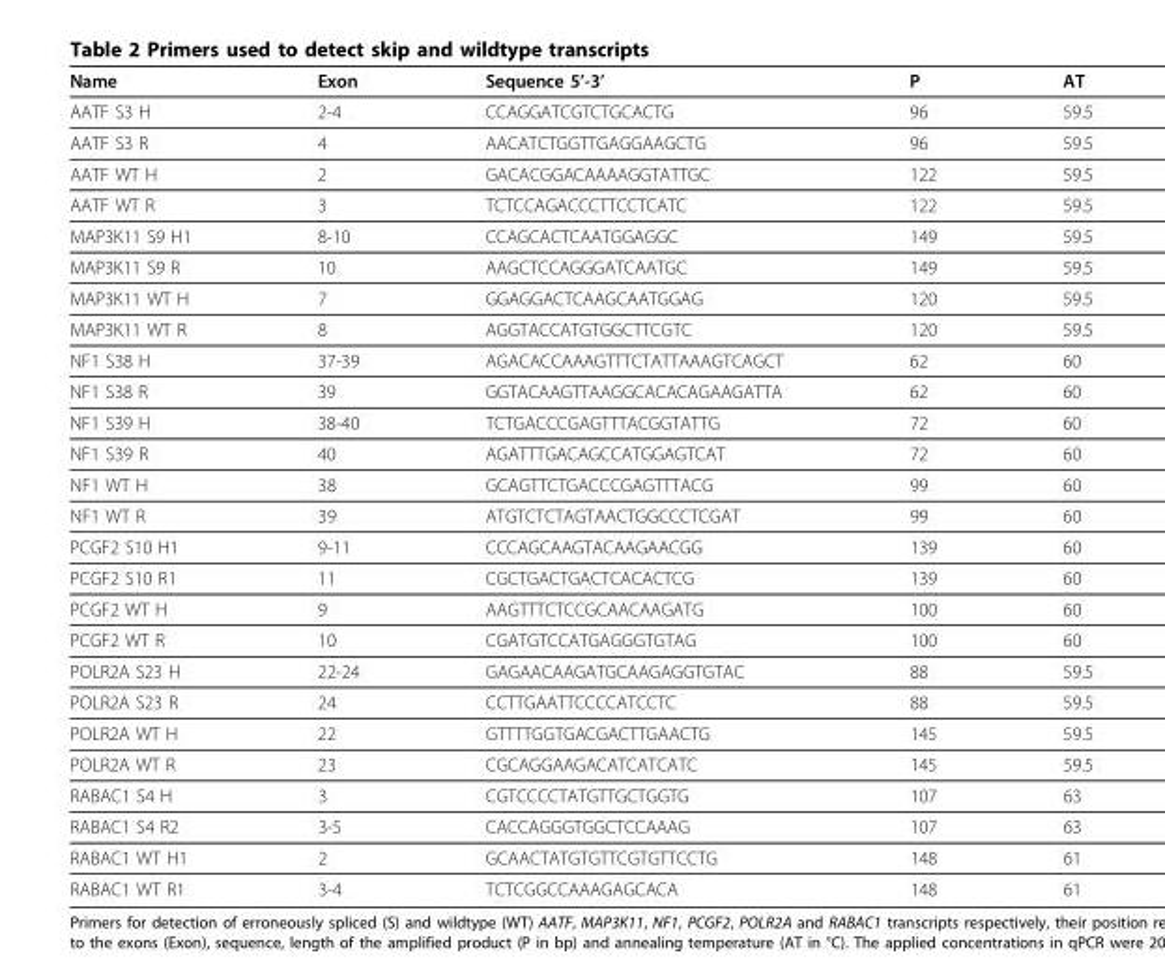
<table><thead><tr><td>Name</td><td>Exon</td><td>Sequence 5’-3’</td><td>P</td><td>AT</td></tr></thead><tbody><tr><td>AATF S3 H</td><td>2-4</td><td>CCAGGATCGTCTGCACTG</td><td>96</td><td>59.5</td></tr><tr><td>AATF S3 R</td><td>4</td><td>AACATCTGGTTGAGGAAGCTG</td><td>96</td><td>59.5</td></tr><tr><td>AATF WT H</td><td>2</td><td>GACACGGACAAAAGGTATTGC</td><td>122</td><td>59.5</td></tr><tr><td>AATF WT R</td><td>3</td><td>TCTCCAGACCCTTCCTCATC</td><td>122</td><td>59.5</td></tr><tr><td>MAP3K11 S9 H1</td><td>8-10</td><td>CCAGCACTCAATGGAGGC</td><td>149</td><td>59.5</td></tr><tr><td>MAP3K11 S9 R</td><td>10</td><td>AAGCTCCAGGGATCAATGC</td><td>149</td><td>59.5</td></tr><tr><td>MAP3K11 WT H</td><td>7</td><td>GGAGGACTCAAGCAATGGAG</td><td>120</td><td>59.5</td></tr><tr><td>MAP3K11 WT R</td><td>8</td><td>AGGTACCATGTGGCTTCGTC</td><td>120</td><td>59.5</td></tr><tr><td>NF1 S38 H</td><td>37-39</td><td>AGACACCAAAGTTTCTATTAAAGTCAGCT</td><td>62</td><td>60</td></tr><tr><td>NF1 S38 R</td><td>39</td><td>GGTACAAGTTAAGGCACACAGAAGATTA</td><td>62</td><td>60</td></tr><tr><td>NF1 S39 H</td><td>38-40</td><td>TCTGACCCGAGTTTACGGTATTG</td><td>72</td><td>60</td></tr><tr><td>NF1 S39 R</td><td>40</td><td>AGATTTGACAGCCATGGAGTCAT</td><td>72</td><td>60</td></tr><tr><td>NF1 WT H</td><td>38</td><td>GCAGTTCTGACCCGAGTTTACG</td><td>99</td><td>60</td></tr><tr><td>NF1 WT R</td><td>39</td><td>ATGTCTCTAGTAACTGGCCCTCGAT</td><td>99</td><td>60</td></tr><tr><td>PCGF2 S10 H1</td><td>9-11</td><td>CCCAGCAAGTACAAGAACGG</td><td>139</td><td>60</td></tr><tr><td>PCGF2 S10 R1</td><td>11</td><td>CGCTGACTGACTCACACTCG</td><td>139</td><td>60</td></tr><tr><td>PCGF2 WT H</td><td>9</td><td>AAGTTTCTCCGCAACAAGATG</td><td>100</td><td>60</td></tr><tr><td>PCGF2 WT R</td><td>10</td><td>CGATGTCCATGAGGGTGTAG</td><td>100</td><td>60</td></tr><tr><td>POLR2A S23 H</td><td>22-24</td><td>GAGAACAAGATGCAAGAGGTGTAC</td><td>88</td><td>59.5</td></tr><tr><td>POLR2A S23 R</td><td>24</td><td>CCTTGAATTCCCCATCCTC</td><td>88</td><td>59.5</td></tr><tr><td>POLR2A WT H</td><td>22</td><td>GTTTTGGTGACGACTTGAACTG</td><td>145</td><td>59.5</td></tr><tr><td>POLR2A WT R</td><td>23</td><td>CGCAGGAAGACATCATCATC</td><td>145</td><td>59.5</td></tr><tr><td>RABAC1 S4 H</td><td>3</td><td>CGTCCCCTATGTTGCTGGTG</td><td>107</td><td>63</td></tr><tr><td>RABAC1 S4 R2</td><td>3-5</td><td>CACCAGGGTGGCTCCAAAG</td><td>107</td><td>63</td></tr><tr><td>RABAC1 WT H1</td><td>2</td><td>GCAACTATGTGTTCGTGTTCCTG</td><td>148</td><td>61</td></tr><tr><td>RABAC1 WT R1</td><td>3-4</td><td>TCTCGGCCAAAGAGCACA</td><td>148</td><td>61</td></tr></tbody></table>